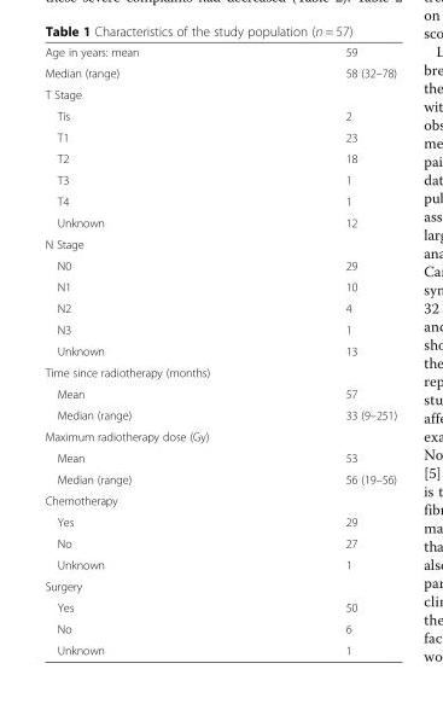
<table><tbody><tr><td>Age in years: mean</td><td>59</td></tr><tr><td>Median (range)</td><td>58 (32–78)</td></tr><tr><td colspan="2">T Stage</td></tr><tr><td>Tis</td><td>2</td></tr><tr><td>T1</td><td>23</td></tr><tr><td>T2</td><td>18</td></tr><tr><td>T3</td><td>1</td></tr><tr><td>T4</td><td>1</td></tr><tr><td>Unknown</td><td>12</td></tr><tr><td colspan="2">N Stage</td></tr><tr><td>N0</td><td>29</td></tr><tr><td>N1</td><td>10</td></tr><tr><td>N2</td><td>4</td></tr><tr><td>N3</td><td>1</td></tr><tr><td>Unknown</td><td>13</td></tr><tr><td colspan="2">Time since radiotherapy (months)</td></tr><tr><td>Mean</td><td>57</td></tr><tr><td>Median (range)</td><td>33 (9–251)</td></tr><tr><td colspan="2">Maximum radiotherapy dose (Gy)</td></tr><tr><td>Mean</td><td>53</td></tr><tr><td>Median (range)</td><td>56 (19–56)</td></tr><tr><td colspan="2">Chemotherapy</td></tr><tr><td>Yes</td><td>29</td></tr><tr><td>No</td><td>27</td></tr><tr><td>Unknown</td><td>1</td></tr><tr><td colspan="2">Surgery</td></tr><tr><td>Yes</td><td>50</td></tr><tr><td>No</td><td>6</td></tr><tr><td>Unknown</td><td>1</td></tr></tbody></table>